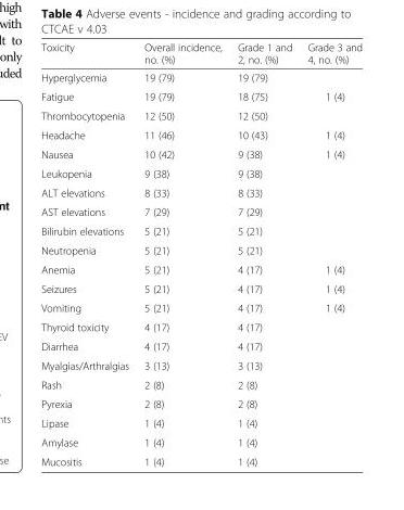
<table><thead><tr><td>Toxicity</td><td>Overall incidence, no. (%)</td><td>Grade 1 and 2, no. (%)</td><td>Grade 3 and 4, no. (%)</td></tr></thead><tbody><tr><td>Hyperglycemia</td><td>19 (79)</td><td>19 (79)</td><td></td></tr><tr><td>Fatigue</td><td>19 (79)</td><td>18 (75)</td><td>1 (4)</td></tr><tr><td>Thrombocytopenia</td><td>12 (50)</td><td>12 (50)</td><td></td></tr><tr><td>Headache</td><td>11 (46)</td><td>10 (43)</td><td>1 (4)</td></tr><tr><td>Nausea</td><td>10 (42)</td><td>9 (38)</td><td>1 (4)</td></tr><tr><td>Leukopenia</td><td>9 (38)</td><td>9 (38)</td><td></td></tr><tr><td>ALT elevations</td><td>8 (33)</td><td>8 (33)</td><td></td></tr><tr><td>AST elevations</td><td>7 (29)</td><td>7 (29)</td><td></td></tr><tr><td>Bilirubin elevations</td><td>5 (21)</td><td>5 (21)</td><td></td></tr><tr><td>Neutropenia</td><td>5 (21)</td><td>5 (21)</td><td></td></tr><tr><td>Anemia</td><td>5 (21)</td><td>4 (17)</td><td>1 (4)</td></tr><tr><td>Seizures</td><td>5 (21)</td><td>4 (17)</td><td>1 (4)</td></tr><tr><td>Vomiting</td><td>5 (21)</td><td>4 (17)</td><td>1 (4)</td></tr><tr><td>Thyroid toxicity</td><td>4 (17)</td><td>4 (17)</td><td></td></tr><tr><td>Diarrhea</td><td>4 (17)</td><td>4 (17)</td><td></td></tr><tr><td>Myalgias/Arthralgias</td><td>3 (13)</td><td>3 (13)</td><td></td></tr><tr><td>Rash</td><td>2 (8)</td><td>2 (8)</td><td></td></tr><tr><td>Pyrexia</td><td>2 (8)</td><td>2 (8)</td><td></td></tr><tr><td>Lipase</td><td>1 (4)</td><td>1 (4)</td><td></td></tr><tr><td>Amylase</td><td>1 (4)</td><td>1 (4)</td><td></td></tr><tr><td>Mucositis</td><td>1 (4)</td><td>1 (4)</td><td></td></tr></tbody></table>